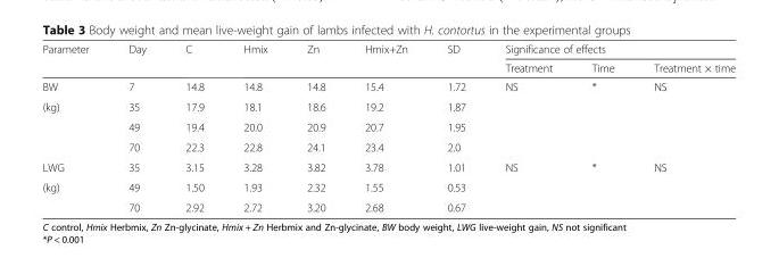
<table><thead><tr><td rowspan="2">Parameter</td><td rowspan="2">Day</td><td rowspan="2">C</td><td rowspan="2">Hmix</td><td rowspan="2">Zn</td><td rowspan="2">Hmix+Zn</td><td rowspan="2">SD</td><td colspan="3">Significance of effects</td></tr><tr><td>Treatment</td><td>Time</td><td>Treatment × time</td></tr></thead><tbody><tr><td>BW</td><td>7</td><td>14.8</td><td>14.8</td><td>14.8</td><td>15.4</td><td>1.72</td><td rowspan="4">NS</td><td rowspan="4">*</td><td rowspan="4">NS</td></tr><tr><td rowspan="3">(kg)</td><td>35</td><td>17.9</td><td>18.1</td><td>18.6</td><td>19.2</td><td>1.87</td></tr><tr><td>49</td><td>19.4</td><td>20.0</td><td>20.9</td><td>20.7</td><td>1.95</td></tr><tr><td>70</td><td>22.3</td><td>22.8</td><td>24.1</td><td>23.4</td><td>2.0</td></tr><tr><td>LWG</td><td>35</td><td>3.15</td><td>3.28</td><td>3.82</td><td>3.78</td><td>1.01</td><td rowspan="3">NS</td><td rowspan="3">*</td><td rowspan="3">NS</td></tr><tr><td rowspan="2">(kg)</td><td>49</td><td>1.50</td><td>1.93</td><td>2.32</td><td>1.55</td><td>0.53</td></tr><tr><td>70</td><td>2.92</td><td>2.72</td><td>3.20</td><td>2.68</td><td>0.67</td></tr></tbody></table>